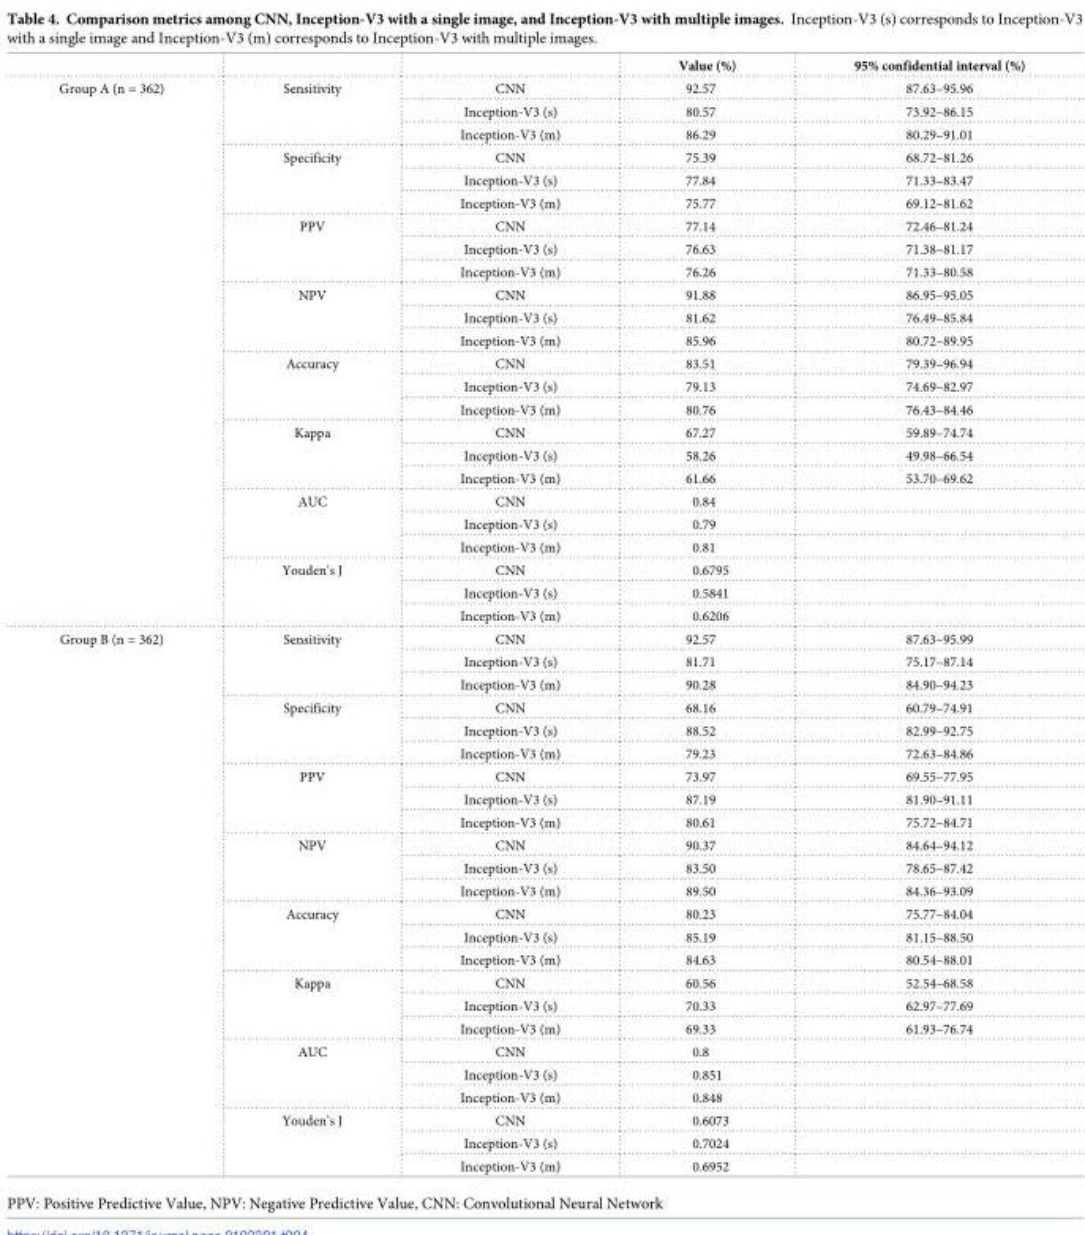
<table><thead><tr><td></td><td></td><td></td><td>Value (%)</td><td>95% confidential interval (%)</td></tr></thead><tbody><tr><td rowspan="24">Group A (n = 362)</td><td rowspan="3">Sensitivity</td><td>CNN</td><td>92.57</td><td>87.63–95.96</td></tr><tr><td>Inception-V3 (s)</td><td>80.57</td><td>73.92–86.15</td></tr><tr><td>Inception-V3 (m)</td><td>86.29</td><td>80.29–91.01</td></tr><tr><td rowspan="3">Specificity</td><td>CNN</td><td>75.39</td><td>68.72–81.26</td></tr><tr><td>Inception-V3 (s)</td><td>77.84</td><td>71.33–83.47</td></tr><tr><td>Inception-V3 (m)</td><td>75.77</td><td>69.12–81.62</td></tr><tr><td rowspan="3">PPV</td><td>CNN</td><td>77.14</td><td>72.46–81.24</td></tr><tr><td>Inception-V3 (s)</td><td>76.63</td><td>71.38–81.17</td></tr><tr><td>Inception-V3 (m)</td><td>76.26</td><td>71.33–80.58</td></tr><tr><td rowspan="3">NPV</td><td>CNN</td><td>91.88</td><td>86.95–95.05</td></tr><tr><td>Inception-V3 (s)</td><td>81.62</td><td>76.49–85.84</td></tr><tr><td>Inception-V3 (m)</td><td>85.96</td><td>80.72–89.95</td></tr><tr><td rowspan="3">Accuracy</td><td>CNN</td><td>83.51</td><td>79.39–96.94</td></tr><tr><td>Inception-V3 (s)</td><td>79.13</td><td>74.69–82.97</td></tr><tr><td>Inception-V3 (m)</td><td>80.76</td><td>76.43–84.46</td></tr><tr><td rowspan="3">Kappa</td><td>CNN</td><td>67.27</td><td>59.89–74.74</td></tr><tr><td>Inception-V3 (s)</td><td>58.26</td><td>49.98–66.54</td></tr><tr><td>Inception-V3 (m)</td><td>61.66</td><td>53.70–69.62</td></tr><tr><td rowspan="3">AUC</td><td>CNN</td><td>0.84</td><td></td></tr><tr><td>Inception-V3 (s)</td><td>0.79</td><td></td></tr><tr><td>Inception-V3 (m)</td><td>0.81</td><td></td></tr><tr><td rowspan="3">Youden’s J</td><td>CNN</td><td>0.6795</td><td></td></tr><tr><td>Inception-V3 (s)</td><td>0.5841</td><td></td></tr><tr><td>Inception-V3 (m)</td><td>0.6206</td><td></td></tr><tr><td rowspan="24">Group B (n = 362)</td><td rowspan="3">Sensitivity</td><td>CNN</td><td>92.57</td><td>87.63–95.99</td></tr><tr><td>Inception-V3 (s)</td><td>81.71</td><td>75.17–87.14</td></tr><tr><td>Inception-V3 (m)</td><td>90.28</td><td>84.90–94.23</td></tr><tr><td rowspan="3">Specificity</td><td>CNN</td><td>68.16</td><td>60.79–74.91</td></tr><tr><td>Inception-V3 (s)</td><td>88.52</td><td>82.99–92.75</td></tr><tr><td>Inception-V3 (m)</td><td>79.23</td><td>72.63–84.86</td></tr><tr><td rowspan="3">PPV</td><td>CNN</td><td>73.97</td><td>69.55–77.95</td></tr><tr><td>Inception-V3 (s)</td><td>87.19</td><td>81.90–91.11</td></tr><tr><td>Inception-V3 (m)</td><td>80.61</td><td>75.72–84.71</td></tr><tr><td rowspan="3">NPV</td><td>CNN</td><td>90.37</td><td>84.64–94.12</td></tr><tr><td>Inception-V3 (s)</td><td>83.50</td><td>78.65–87.42</td></tr><tr><td>Inception-V3 (m)</td><td>89.50</td><td>84.36–93.09</td></tr><tr><td rowspan="3">Accuracy</td><td>CNN</td><td>80.23</td><td>75.77–84.04</td></tr><tr><td>Inception-V3 (s)</td><td>85.19</td><td>81.15–88.50</td></tr><tr><td>Inception-V3 (m)</td><td>84.63</td><td>80.54–88.01</td></tr><tr><td rowspan="3">Kappa</td><td>CNN</td><td>60.56</td><td>52.54–68.58</td></tr><tr><td>Inception-V3 (s)</td><td>70.33</td><td>62.97–77.69</td></tr><tr><td>Inception-V3 (m)</td><td>69.33</td><td>61.93–76.74</td></tr><tr><td rowspan="3">AUC</td><td>CNN</td><td>0.8</td><td></td></tr><tr><td>Inception-V3 (s)</td><td>0.851</td><td></td></tr><tr><td>Inception-V3 (m)</td><td>0.848</td><td></td></tr><tr><td rowspan="3">Youden’s J</td><td>CNN</td><td>0.6073</td><td></td></tr><tr><td>Inception-V3 (s)</td><td>0.7024</td><td></td></tr><tr><td>Inception-V3 (m)</td><td>0.6952</td><td></td></tr></tbody></table>